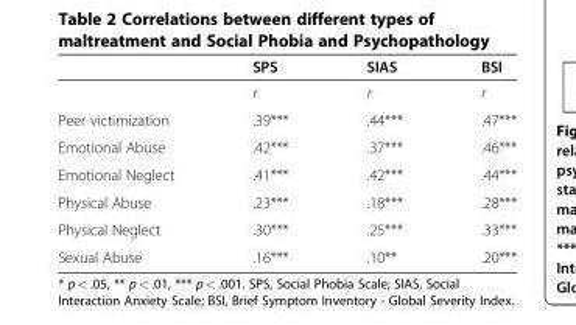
<table><thead><tr><td></td><td>SPS</td><td>SIAS</td><td>BSI</td></tr></thead><tbody><tr><td></td><td>r</td><td>r</td><td>r</td></tr><tr><td>Peer victimization</td><td>.39***</td><td>.44***</td><td>.47***</td></tr><tr><td>Emotional Abuse</td><td>.42***</td><td>.37***</td><td>.46***</td></tr><tr><td>Emotional Neglect</td><td>.41***</td><td>.42***</td><td>.44***</td></tr><tr><td>Physical Abuse</td><td>.23***</td><td>.18***</td><td>.28***</td></tr><tr><td>Physical Neglect</td><td>.30***</td><td>.25***</td><td>.33***</td></tr><tr><td>Sexual Abuse</td><td>.16***</td><td>.10**</td><td>.20***</td></tr></tbody></table>